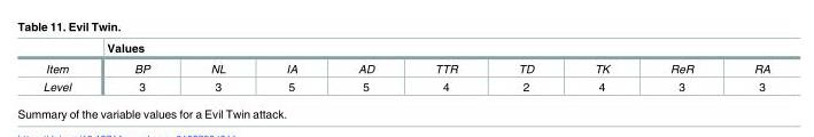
<table><thead><tr><td rowspan="2">Item</td><td colspan="9">Values</td></tr><tr><td>BP</td><td>NL</td><td>IA</td><td>AD</td><td>TTR</td><td>TD</td><td>TK</td><td>ReR</td><td>RA</td></tr></thead><tbody><tr><td>Level</td><td>3</td><td>3</td><td>5</td><td>5</td><td>4</td><td>2</td><td>4</td><td>3</td><td>3</td></tr></tbody></table>